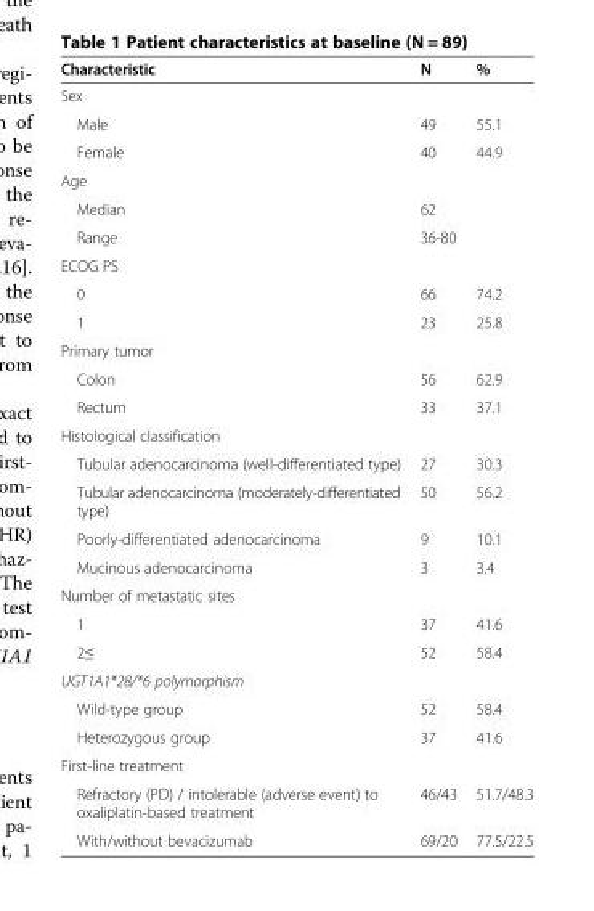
<table><thead><tr><td>Characteristic</td><td>N</td><td>%</td></tr></thead><tbody><tr><td colspan="3">Sex</td></tr><tr><td>Male</td><td>49</td><td>55.1</td></tr><tr><td>Female</td><td>40</td><td>44.9</td></tr><tr><td colspan="3">Age</td></tr><tr><td>Median</td><td>62</td><td></td></tr><tr><td>Range</td><td>36-80</td><td></td></tr><tr><td colspan="3">ECOG PS</td></tr><tr><td>0</td><td>66</td><td>74.2</td></tr><tr><td>1</td><td>23</td><td>25.8</td></tr><tr><td colspan="3">Primary tumor</td></tr><tr><td>Colon</td><td>56</td><td>62.9</td></tr><tr><td>Rectum</td><td>33</td><td>37.1</td></tr><tr><td colspan="3">Histological classification</td></tr><tr><td>Tubular adenocarcinoma (well-differentiated type)</td><td>27</td><td>30.3</td></tr><tr><td>Tubular adenocarcinoma (moderately-differentiated type)</td><td>50</td><td>56.2</td></tr><tr><td>Poorly-differentiated adenocarcinoma</td><td>9</td><td>10.1</td></tr><tr><td>Mucinous adenocarcinoma</td><td>3</td><td>3.4</td></tr><tr><td colspan="3">Number of metastatic sites</td></tr><tr><td>1</td><td>37</td><td>41.6</td></tr><tr><td>2≤</td><td>52</td><td>58.4</td></tr><tr><td colspan="3">UGT1A1*28/*6 polymorphism</td></tr><tr><td>Wild-type group</td><td>52</td><td>58.4</td></tr><tr><td>Heterozygous group</td><td>37</td><td>41.6</td></tr><tr><td colspan="3">First-line treatment</td></tr><tr><td>Refractory (PD) / intolerable (adverse event) to oxaliplatin-based treatment</td><td>46/43</td><td>51.7/48.3</td></tr><tr><td>With/without bevacizumab</td><td>69/20</td><td>77.5/22.5</td></tr></tbody></table>